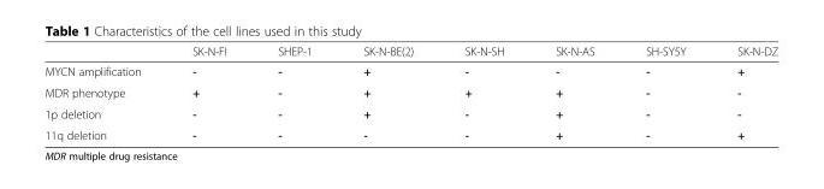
<table><thead><tr><td></td><td>SK-N-FI</td><td>SHEP-1</td><td>SK-N-BE(2)</td><td>SK-N-SH</td><td>SK-N-AS</td><td>SH-SY5Y</td><td>SK-N-DZ</td></tr></thead><tbody><tr><td>MYCN amplification</td><td>-</td><td>-</td><td>+</td><td>-</td><td>-</td><td>-</td><td>+</td></tr><tr><td>MDR phenotype</td><td>+</td><td>-</td><td>+</td><td>+</td><td>+</td><td>-</td><td>-</td></tr><tr><td>1p deletion</td><td>-</td><td>-</td><td>+</td><td>-</td><td>+</td><td>-</td><td>-</td></tr><tr><td>11q deletion</td><td>-</td><td>-</td><td>-</td><td>-</td><td>+</td><td>-</td><td>+</td></tr></tbody></table>